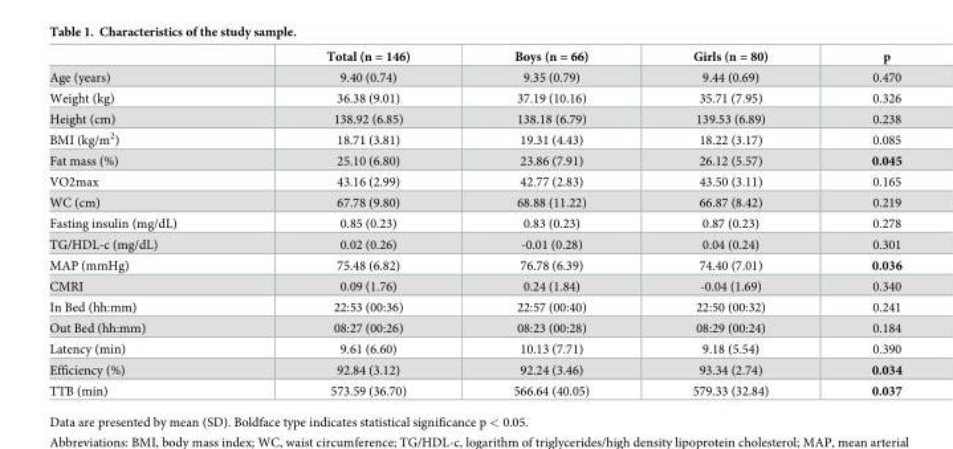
<table><thead><tr><td></td><td>Total (n = 146)</td><td>Boys (n = 66)</td><td>Girls (n = 80)</td><td>p</td></tr></thead><tbody><tr><td>Age (years)</td><td>9.40 (0.74)</td><td>9.35 (0.79)</td><td>9.44 (0.69)</td><td>0.470</td></tr><tr><td>Weight (kg)</td><td>36.38 (9.01)</td><td>37.19 (10.16)</td><td>35.71 (7.95)</td><td>0.326</td></tr><tr><td>Height (cm)</td><td>138.92 (6.85)</td><td>138.18 (6.79)</td><td>139.53 (6.89)</td><td>0.238</td></tr><tr><td>BMI (kg/m<sup>2</sup>)</td><td>18.71 (3.81)</td><td>19.31 (4.43)</td><td>18.22 (3.17)</td><td>0.085</td></tr><tr><td>Fat mass (%)</td><td>25.10 (6.80)</td><td>23.86 (7.91)</td><td>26.12 (5.57)</td><td>0.045</td></tr><tr><td>VO2max</td><td>43.16 (2.99)</td><td>42.77 (2.83)</td><td>43.50 (3.11)</td><td>0.165</td></tr><tr><td>WC (cm)</td><td>67.78 (9.80)</td><td>68.88 (11.22)</td><td>66.87 (8.42)</td><td>0.219</td></tr><tr><td>Fasting insulin (mg/dL)</td><td>0.85 (0.23)</td><td>0.83 (0.23)</td><td>0.87 (0.23)</td><td>0.278</td></tr><tr><td>TG/HDL-c (mg/dL)</td><td>0.02 (0.26)</td><td>-0.01 (0.28)</td><td>0.04 (0.24)</td><td>0.301</td></tr><tr><td>MAP (mmHg)</td><td>75.48 (6.82)</td><td>76.78 (6.39)</td><td>74.40 (7.01)</td><td>0.036</td></tr><tr><td>CMRI</td><td>0.09 (1.76)</td><td>0.24 (1.84)</td><td>-0.04 (1.69)</td><td>0.340</td></tr><tr><td>In Bed (hh:mm)</td><td>22:53 (00:36)</td><td>22:57 (00:40)</td><td>22:50 (00:32)</td><td>0.241</td></tr><tr><td>Out Bed (hh:mm)</td><td>08:27 (00:26)</td><td>08:23 (00:28)</td><td>08:29 (00:24)</td><td>0.184</td></tr><tr><td>Latency (min)</td><td>9.61 (6.60)</td><td>10.13 (7.71)</td><td>9.18 (5.54)</td><td>0.390</td></tr><tr><td>Efficiency (%)</td><td>92.84 (3.12)</td><td>92.24 (3.46)</td><td>93.34 (2.74)</td><td>0.034</td></tr><tr><td>TTB (min)</td><td>573.59 (36.70)</td><td>566.64 (40.05)</td><td>579.33 (32.84)</td><td>0.037</td></tr></tbody></table>